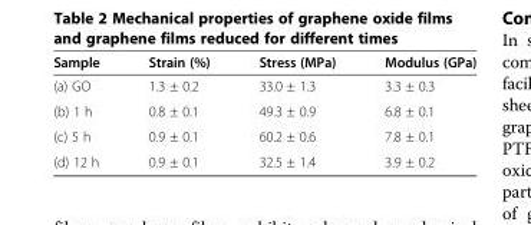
<table><thead><tr><td>Sample</td><td>Strain (%)</td><td>Stress (MPa)</td><td>Modulus (GPa)</td></tr></thead><tbody><tr><td>(a) GO</td><td>1.3 ± 0.2</td><td>33.0 ± 1.3</td><td>3.3 ± 0.3</td></tr><tr><td>(b) 1 h</td><td>0.8 ± 0.1</td><td>49.3 ± 0.9</td><td>6.8 ± 0.1</td></tr><tr><td>(c) 5 h</td><td>0.9 ± 0.1</td><td>60.2 ± 0.6</td><td>7.8 ± 0.1</td></tr><tr><td>(d) 12 h</td><td>0.9 ± 0.1</td><td>32.5 ± 1.4</td><td>3.9 ± 0.2</td></tr></tbody></table>